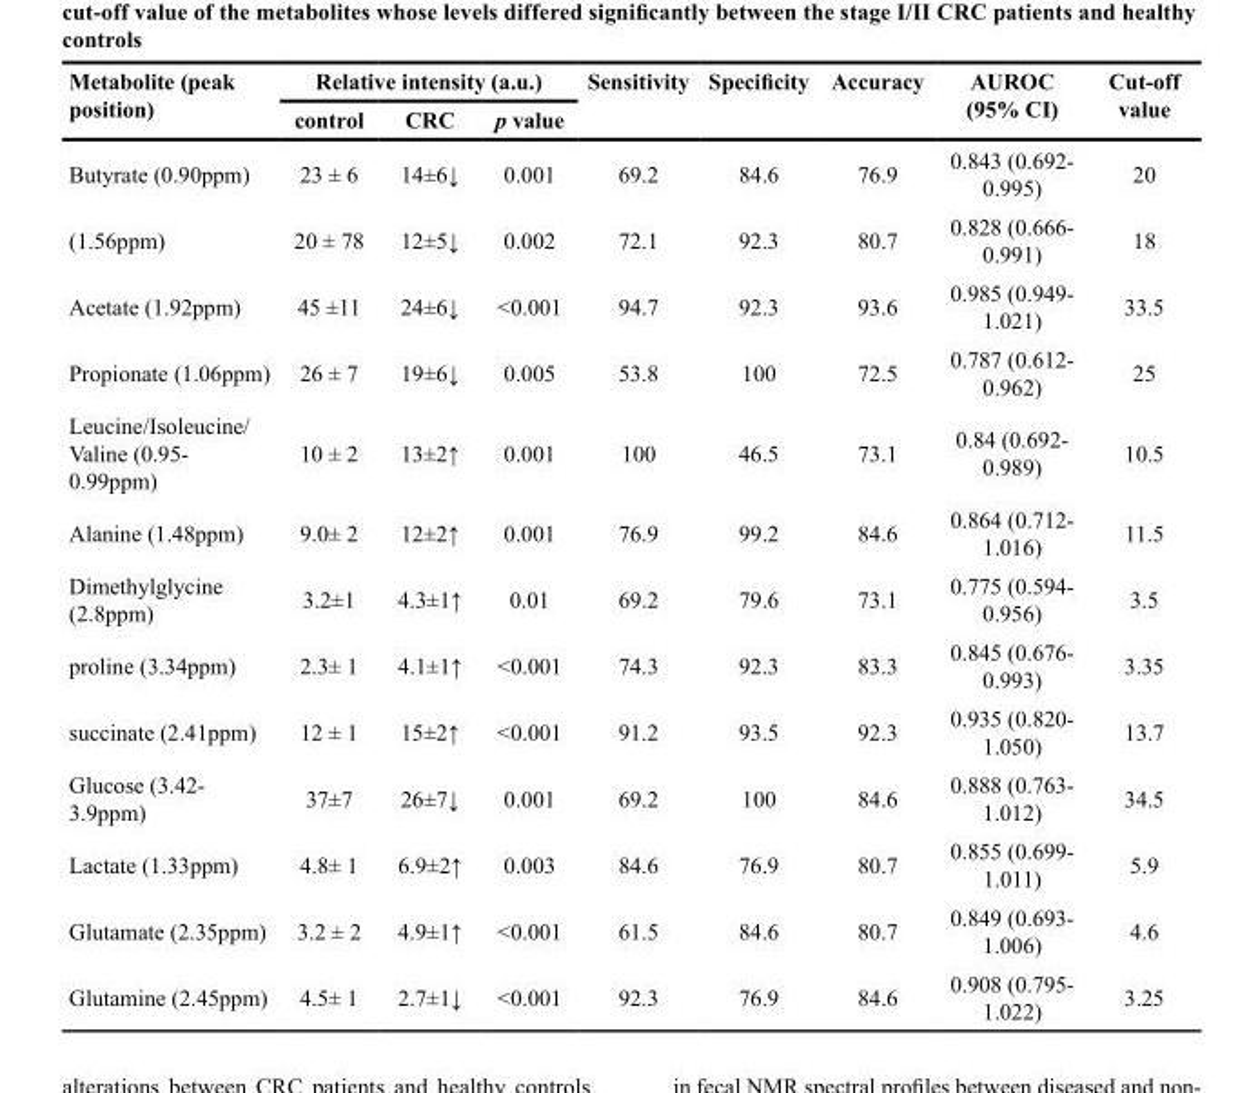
<table><thead><tr><td rowspan="2">Metabolite (peak position)</td><td colspan="3">Relative intensity (a.u.)</td><td rowspan="2">Sensitivity</td><td rowspan="2">Specificity</td><td rowspan="2">Accuracy</td><td rowspan="2">AUROC (95% CI)</td><td rowspan="2">Cut-off value</td></tr><tr><td>control</td><td>CRC</td><td>p value</td></tr></thead><tbody><tr><td>Butyrate (0.90ppm)</td><td>23 ± 6</td><td>14±6↓</td><td>0.001</td><td>69.2</td><td>84.6</td><td>76.9</td><td>0.843 (0.692- 0.995)</td><td>20</td></tr><tr><td>(1.56ppm)</td><td>20 ± 78</td><td>12±5↓</td><td>0.002</td><td>72.1</td><td>92.3</td><td>80.7</td><td>0.828 (0.666- 0.991)</td><td>18</td></tr><tr><td>Acetate (1.92ppm)</td><td>45 ±11</td><td>24±6↓</td><td>&lt;0.001</td><td>94.7</td><td>92.3</td><td>93.6</td><td>0.985 (0.949- 1.021)</td><td>33.5</td></tr><tr><td>Propionate (1.06ppm)</td><td>26 ± 7</td><td>19±6↓</td><td>0.005</td><td>53.8</td><td>100</td><td>72.5</td><td>0.787 (0.612- 0.962)</td><td>25</td></tr><tr><td>Leucine/Isoleucine/ Valine (0.95- 0.99ppm)</td><td>10 ± 2</td><td>13±2↑</td><td>0.001</td><td>100</td><td>46.5</td><td>73.1</td><td>0.84 (0.692- 0.989)</td><td>10.5</td></tr><tr><td>Alanine (1.48ppm)</td><td>9.0± 2</td><td>12±2↑</td><td>0.001</td><td>76.9</td><td>99.2</td><td>84.6</td><td>0.864 (0.712- 1.016)</td><td>11.5</td></tr><tr><td>Dimethylglycine (2.8ppm)</td><td>3.2±1</td><td>4.3±1↑</td><td>0.01</td><td>69.2</td><td>79.6</td><td>73.1</td><td>0.775 (0.594- 0.956)</td><td>3.5</td></tr><tr><td>proline (3.34ppm)</td><td>2.3± 1</td><td>4.1±1↑</td><td>&lt;0.001</td><td>74.3</td><td>92.3</td><td>83.3</td><td>0.845 (0.676- 0.993)</td><td>3.35</td></tr><tr><td>succinate (2.41ppm)</td><td>12 ± 1</td><td>15±2↑</td><td>&lt;0.001</td><td>91.2</td><td>93.5</td><td>92.3</td><td>0.935 (0.820- 1.050)</td><td>13.7</td></tr><tr><td>Glucose (3.42- 3.9ppm)</td><td>37±7</td><td>26±7↓</td><td>0.001</td><td>69.2</td><td>100</td><td>84.6</td><td>0.888 (0.763- 1.012)</td><td>34.5</td></tr><tr><td>Lactate (1.33ppm)</td><td>4.8± 1</td><td>6.9±2↑</td><td>0.003</td><td>84.6</td><td>76.9</td><td>80.7</td><td>0.855 (0.699- 1.011)</td><td>5.9</td></tr><tr><td>Glutamate (2.35ppm)</td><td>3.2 ± 2</td><td>4.9±1↑</td><td>&lt;0.001</td><td>61.5</td><td>84.6</td><td>80.7</td><td>0.849 (0.693- 1.006)</td><td>4.6</td></tr><tr><td>Glutamine (2.45ppm)</td><td>4.5± 1</td><td>2.7±1↓</td><td>&lt;0.001</td><td>92.3</td><td>76.9</td><td>84.6</td><td>0.908 (0.795- 1.022)</td><td>3.25</td></tr></tbody></table>